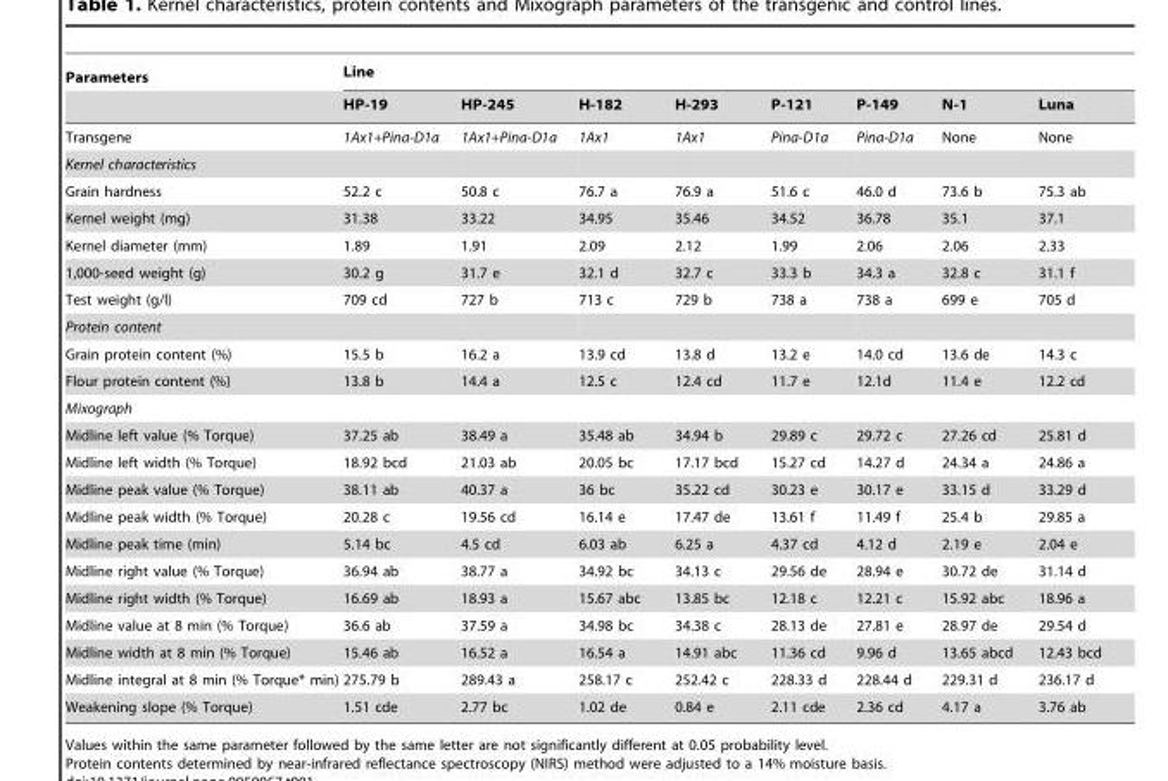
<table><thead><tr><td rowspan="2">Parameters</td><td colspan="8">Line</td></tr><tr><td>HP-19</td><td>HP-245</td><td>H-182</td><td>H-293</td><td>P-121</td><td>P-149</td><td>N-1</td><td>Luna</td></tr></thead><tbody><tr><td>Transgene</td><td>1Ax1+Pina-D1a</td><td>1Ax1+Pina-D1a</td><td>1Ax1</td><td>1Ax1</td><td>Pina-D1a</td><td>Pina-D1a</td><td>None</td><td>None</td></tr><tr><td colspan="9">Kernel characteristics</td></tr><tr><td>Grain hardness</td><td>52.2 c</td><td>50.8 c</td><td>76.7 a</td><td>76.9 a</td><td>51.6 c</td><td>46.0 d</td><td>73.6 b</td><td>75.3 ab</td></tr><tr><td>Kernel weight (mg)</td><td>31.38</td><td>33.22</td><td>34.95</td><td>35.46</td><td>34.52</td><td>36.78</td><td>35.1</td><td>37.1</td></tr><tr><td>Kernel diameter (mm)</td><td>1.89</td><td>1.91</td><td>2.09</td><td>2.12</td><td>1.99</td><td>2.06</td><td>2.06</td><td>2.33</td></tr><tr><td>1,000-seed weight (g)</td><td>30.2 g</td><td>31.7 e</td><td>32.1 d</td><td>32.7 c</td><td>33.3 b</td><td>34.3 a</td><td>32.8 c</td><td>31.1 f</td></tr><tr><td>Test weight (g/l)</td><td>709 cd</td><td>727 b</td><td>713 c</td><td>729 b</td><td>738 a</td><td>738 a</td><td>699 e</td><td>705 d</td></tr><tr><td colspan="9">Protein content</td></tr><tr><td>Grain protein content (%)</td><td>15.5 b</td><td>16.2 a</td><td>13.9 cd</td><td>13.8 d</td><td>13.2 e</td><td>14.0 cd</td><td>13.6 de</td><td>14.3 c</td></tr><tr><td>Flour protein content (%)</td><td>13.8 b</td><td>14.4 a</td><td>12.5 c</td><td>12.4 cd</td><td>11.7 e</td><td>12.1d</td><td>11.4 e</td><td>12.2 cd</td></tr><tr><td colspan="9">Mixograph</td></tr><tr><td>Midline left value (% Torque)</td><td>37.25 ab</td><td>38.49 a</td><td>35.48 ab</td><td>34.94 b</td><td>29.89 c</td><td>29.72 c</td><td>27.26 cd</td><td>25.81 d</td></tr><tr><td>Midline left width (% Torque)</td><td>18.92 bcd</td><td>21.03 ab</td><td>20.05 bc</td><td>17.17 bcd</td><td>15.27 cd</td><td>14.27 d</td><td>24.34 a</td><td>24.86 a</td></tr><tr><td>Midline peak value (% Torque)</td><td>38.11 ab</td><td>40.37 a</td><td>36 bc</td><td>35.22 cd</td><td>30.23 e</td><td>30.17 e</td><td>33.15 d</td><td>33.29 d</td></tr><tr><td>Midline peak width (% Torque)</td><td>20.28 c</td><td>19.56 cd</td><td>16.14 e</td><td>17.47 de</td><td>13.61 f</td><td>11.49 f</td><td>25.4 b</td><td>29.85 a</td></tr><tr><td>Midline peak time (min)</td><td>5.14 bc</td><td>4.5 cd</td><td>6.03 ab</td><td>6.25 a</td><td>4.37 cd</td><td>4.12 d</td><td>2.19 e</td><td>2.04 e</td></tr><tr><td>Midline right value (% Torque)</td><td>36.94 ab</td><td>38.77 a</td><td>34.92 bc</td><td>34.13 c</td><td>29.56 de</td><td>28.94 e</td><td>30.72 de</td><td>31.14 d</td></tr><tr><td>Midline right width (% Torque)</td><td>16.69 ab</td><td>18.93 a</td><td>15.67 abc</td><td>13.85 bc</td><td>12.18 c</td><td>12.21 c</td><td>15.92 abc</td><td>18.96 a</td></tr><tr><td>Midline value at 8 min (% Torque)</td><td>36.6 ab</td><td>37.59 a</td><td>34.98 bc</td><td>34.38 c</td><td>28.13 de</td><td>27.81 e</td><td>28.97 de</td><td>29.54 d</td></tr><tr><td>Midline width at 8 min (% Torque)</td><td>15.46 ab</td><td>16.52 a</td><td>16.54 a</td><td>14.91 abc</td><td>11.36 cd</td><td>9.96 d</td><td>13.65 abcd</td><td>12.43 bcd</td></tr><tr><td>Midline integral at 8 min (% Torque* min)</td><td>275.79 b</td><td>289.43 a</td><td>258.17 c</td><td>252.42 c</td><td>228.33 d</td><td>228.44 d</td><td>229.31 d</td><td>236.17 d</td></tr><tr><td>Weakening slope (% Torque)</td><td>1.51 cde</td><td>2.77 bc</td><td>1.02 de</td><td>0.84 e</td><td>2.11 cde</td><td>2.36 cd</td><td>4.17 a</td><td>3.76 ab</td></tr></tbody></table>